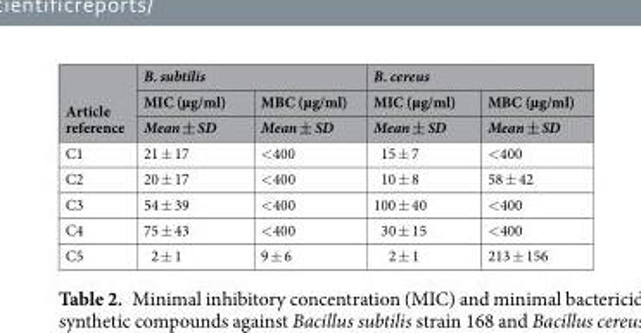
<table><thead><tr><td rowspan="3">Article reference</td><td colspan="2">B. subtilis</td><td colspan="2">B. cereus</td></tr><tr><td rowspan="2">MIC (µg/ml) Mean ± SD</td><td rowspan="2">MBC (µg/ml) Mean ± SD</td><td rowspan="2">MIC (µg/ml) Mean ± SD</td><td rowspan="2">MBC (µg/ml) Mean ± SD</td></tr><tr></tr></thead><tbody><tr><td>C1</td><td>21 ± 17</td><td>&lt;400</td><td>15 ± 7</td><td>&lt;400</td></tr><tr><td>C2</td><td>20 ± 17</td><td>&lt;400</td><td>10 ± 8</td><td>58 ± 42</td></tr><tr><td>C3</td><td>54 ± 39</td><td>&lt;400</td><td>100 ± 40</td><td>&lt;400</td></tr><tr><td>C4</td><td>75 ± 43</td><td>&lt;400</td><td>30 ± 15</td><td>&lt;400</td></tr><tr><td>C5</td><td>2 ± 1</td><td>9 ± 6</td><td>2 ± 1</td><td>213 ± 156</td></tr></tbody></table>